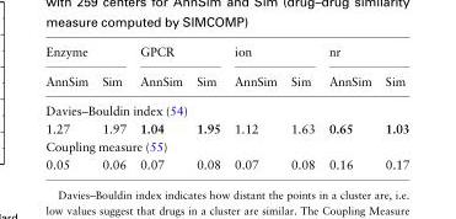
<table><thead><tr><td colspan="2">Enzyme</td><td colspan="2">GPCR</td><td colspan="2">ion</td><td colspan="2">nr</td></tr><tr><td>AnnSim</td><td>Sim</td><td>AnnSim</td><td>Sim</td><td>AnnSim</td><td>Sim</td><td>AnnSim</td><td>Sim</td></tr></thead><tbody><tr><td colspan="8">Davies–Bouldin index (54)</td></tr><tr><td>1.27</td><td>1.97</td><td>1.04</td><td>1.95</td><td>1.12</td><td>1.63</td><td>0.65</td><td>1.03</td></tr><tr><td colspan="8">Coupling measure (55)</td></tr><tr><td>0.05</td><td>0.06</td><td>0.07</td><td>0.08</td><td>0.07</td><td>0.08</td><td>0.16</td><td>0.17</td></tr></tbody></table>